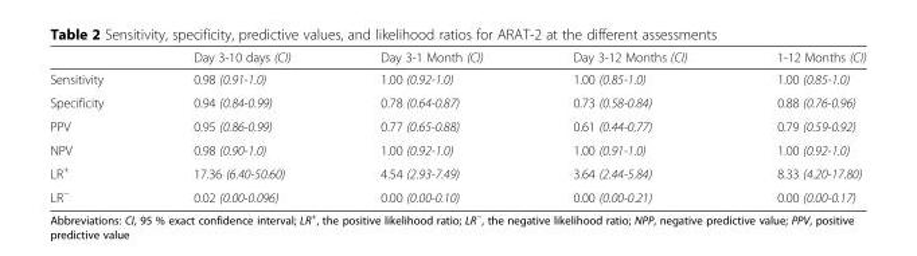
<table><thead><tr><td></td><td>Day 3-10 days (CI)</td><td>Day 3-1 Month (CI)</td><td>Day 3-12 Months (CI)</td><td>1-12 Months (CI)</td></tr></thead><tbody><tr><td>Sensitivity</td><td>0.98 (0.91-1.0)</td><td>1.00 (0.92-1.0)</td><td>1.00 (0.85-1.0)</td><td>1.00 (0.85-1.0)</td></tr><tr><td>Specificity</td><td>0.94 (0.84-0.99)</td><td>0.78 (0.64-0.87)</td><td>0.73 (0.58-0.84)</td><td>0.88 (0.76-0.96)</td></tr><tr><td>PPV</td><td>0.95 (0.86-0.99)</td><td>0.77 (0.65-0.88)</td><td>0.61 (0.44-0.77)</td><td>0.79 (0.59-0.92)</td></tr><tr><td>NPV</td><td>0.98 (0.90-1.0)</td><td>1.00 (0.92-1.0)</td><td>1.00 (0.91-1.0)</td><td>1.00 (0.92-1.0)</td></tr><tr><td>LR<sup>+</sup></td><td>17.36 (6.40-50.60)</td><td>4.54 (2.93-7.49)</td><td>3.64 (2.44-5.84)</td><td>8.33 (4.20-17.80)</td></tr><tr><td>LR<sup>−</sup></td><td>0.02 (0.00-0.096)</td><td>0.00 (0.00-0.10)</td><td>0.00 (0.00-0.21)</td><td>0.00 (0.00-0.17)</td></tr></tbody></table>